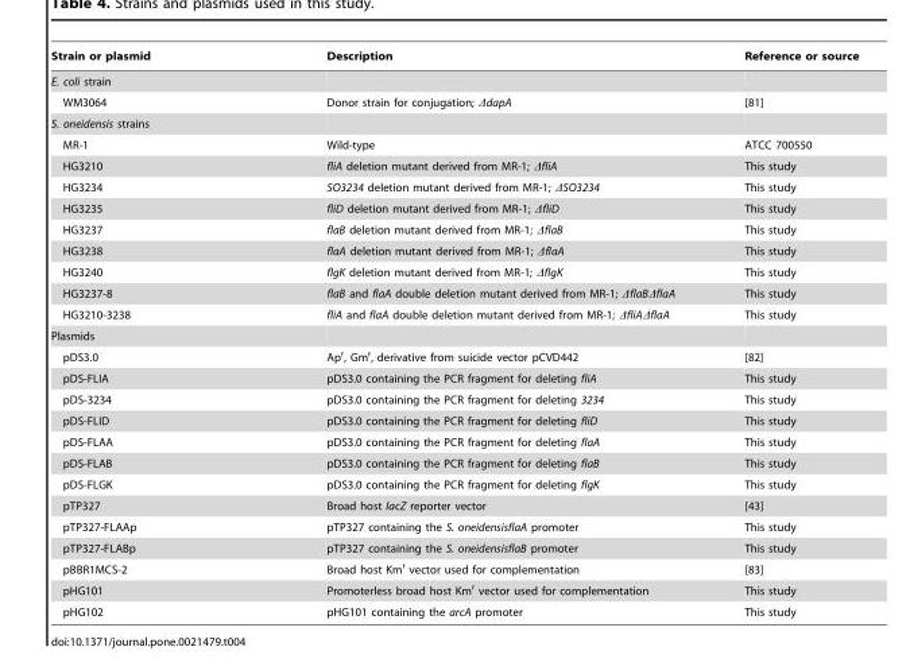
<table><thead><tr><td>Strain or plasmid</td><td>Description</td><td>Reference or source</td></tr></thead><tbody><tr><td colspan="3">E. coli strain</td></tr><tr><td>WM3064</td><td>Donor strain for conjugation; ΔdapA</td><td>[81]</td></tr><tr><td colspan="3">S. oneidensis strains</td></tr><tr><td>MR-1</td><td>Wild-type</td><td>ATCC 700550</td></tr><tr><td>HG3210</td><td>fliA deletion mutant derived from MR-1; ΔfliA</td><td>This study</td></tr><tr><td>HG3234</td><td>SO3234 deletion mutant derived from MR-1; ΔSO3234</td><td>This study</td></tr><tr><td>HG3235</td><td>fliD deletion mutant derived from MR-1; ΔfliD</td><td>This study</td></tr><tr><td>HG3237</td><td>flaB deletion mutant derived from MR-1; ΔflaB</td><td>This study</td></tr><tr><td>HG3238</td><td>flaA deletion mutant derived from MR-1; ΔflaA</td><td>This study</td></tr><tr><td>HG3240</td><td>flgK deletion mutant derived from MR-1; ΔflgK</td><td>This study</td></tr><tr><td>HG3237-8</td><td>flaB and flaA double deletion mutant derived from MR-1; ΔflaBΔflaA</td><td>This study</td></tr><tr><td>HG3210-3238</td><td>fliA and flaA double deletion mutant derived from MR-1; ΔfliAΔflaA</td><td>This study</td></tr><tr><td colspan="3">Plasmids</td></tr><tr><td>pDS3.0</td><td>Ap<sup>r</sup>, Gm<sup>r</sup>, derivative from suicide vector pCVD442</td><td>[82]</td></tr><tr><td>pDS-FLIA</td><td>pDS3.0 containing the PCR fragment for deleting fliA</td><td>This study</td></tr><tr><td>pDS-3234</td><td>pDS3.0 containing the PCR fragment for deleting 3234</td><td>This study</td></tr><tr><td>pDS-FLID</td><td>pDS3.0 containing the PCR fragment for deleting fliD</td><td>This study</td></tr><tr><td>pDS-FLAA</td><td>pDS3.0 containing the PCR fragment for deleting flaA</td><td>This study</td></tr><tr><td>pDS-FLAB</td><td>pDS3.0 containing the PCR fragment for deleting flaB</td><td>This study</td></tr><tr><td>pDS-FLGK</td><td>pDS3.0 containing the PCR fragment for deleting flgK</td><td>This study</td></tr><tr><td>pTP327</td><td>Broad host lacZ reporter vector</td><td>[43]</td></tr><tr><td>pTP327-FLAAp</td><td>pTP327 containing the S. oneidensisflaA promoter</td><td>This study</td></tr><tr><td>pTP327-FLABp</td><td>pTP327 containing the S. oneidensisflaB promoter</td><td>This study</td></tr><tr><td>pBBR1MCS-2</td><td>Broad host Km<sup>r</sup> vector used for complementation</td><td>[83]</td></tr><tr><td>pHG101</td><td>Promoterless broad host Km<sup>r</sup> vector used for complementation</td><td>This study</td></tr><tr><td>pHG102</td><td>pHG101 containing the arcA promoter</td><td>This study</td></tr></tbody></table>